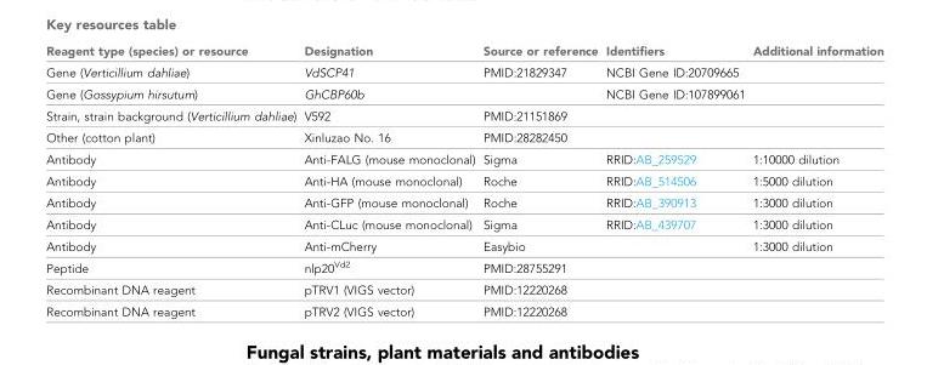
<table><thead><tr><td>Reagent type (species) or resource</td><td>Designation</td><td>Source or reference</td><td>Identifiers</td><td>Additional information</td></tr></thead><tbody><tr><td>Gene (Verticillium dahliae)</td><td>VdSCP41</td><td>PMID:21829347</td><td>NCBI Gene ID:20709665</td><td></td></tr><tr><td>Gene (Gossypium hirsutum)</td><td>GhCBP60b</td><td></td><td>NCBI Gene ID:107899061</td><td></td></tr><tr><td>Strain, strain background (Verticillium dahliae)</td><td>V592</td><td>PMID:21151869</td><td></td><td></td></tr><tr><td>Other (cotton plant)</td><td>Xinluzao No. 16</td><td>PMID:28282450</td><td></td><td></td></tr><tr><td>Antibody</td><td>Anti-FALG (mouse monoclonal)</td><td>Sigma</td><td>RRID:AB_259529</td><td>1:10000 dilution</td></tr><tr><td>Antibody</td><td>Anti-HA (mouse monoclonal)</td><td>Roche</td><td>RRID:AB_514506</td><td>1:5000 dilution</td></tr><tr><td>Antibody</td><td>Anti-GFP (mouse monoclonal)</td><td>Roche</td><td>RRID:AB_390913</td><td>1:3000 dilution</td></tr><tr><td>Antibody</td><td>Anti-CLuc (mouse monoclonal)</td><td>Sigma</td><td>RRID:AB_439707</td><td>1:3000 dilution</td></tr><tr><td>Antibody</td><td>Anti-mCherry</td><td>Easybio</td><td></td><td>1:3000 dilution</td></tr><tr><td>Peptide</td><td>nlp20<sup>Vd2</sup></td><td>PMID:28755291</td><td></td><td></td></tr><tr><td>Recombinant DNA reagent</td><td>pTRV1 (VIGS vector)</td><td>PMID:12220268</td><td></td><td></td></tr><tr><td>Recombinant DNA reagent</td><td>pTRV2 (VIGS vector)</td><td>PMID:12220268</td><td></td><td></td></tr></tbody></table>